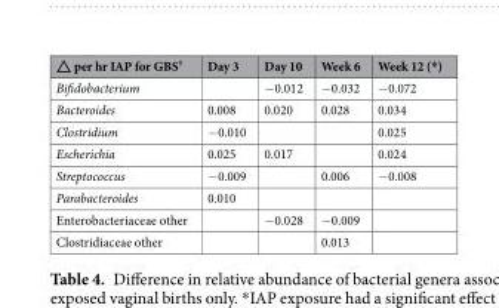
<table><thead><tr><td>△ per hr IAP for GBS<sup>†</sup></td><td>Day 3</td><td>Day 10</td><td>Week 6</td><td>Week 12 (*)</td></tr></thead><tbody><tr><td>Bifidobacterium</td><td></td><td>−0.012</td><td>−0.032</td><td>−0.072</td></tr><tr><td>Bacteroides</td><td>0.008</td><td>0.020</td><td>0.028</td><td>0.034</td></tr><tr><td>Clostridium</td><td>−0.010</td><td></td><td></td><td>0.025</td></tr><tr><td>Escherichia</td><td>0.025</td><td>0.017</td><td></td><td>0.024</td></tr><tr><td>Streptococcus</td><td>−0.009</td><td></td><td>0.006</td><td>−0.008</td></tr><tr><td>Parabacteroides</td><td>0.010</td><td></td><td></td><td></td></tr><tr><td>Enterobacteriaceae other</td><td></td><td>−0.028</td><td>−0.009</td><td></td></tr><tr><td>Clostridiaceae other</td><td></td><td></td><td>0.013</td><td></td></tr></tbody></table>